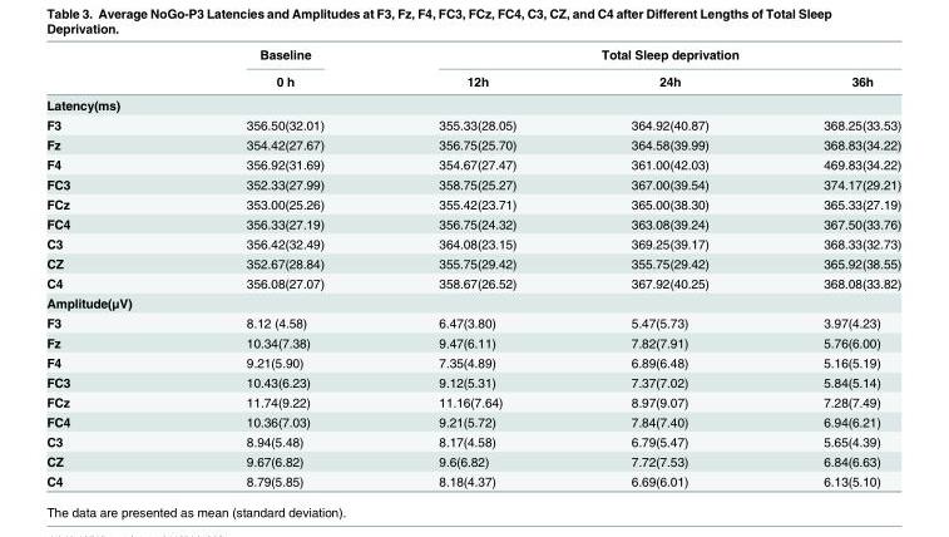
<table><thead><tr><td rowspan="2"></td><td rowspan="2">Baseline 0 h</td><td colspan="3">Total Sleep deprivation</td></tr><tr><td>12h</td><td>24h</td><td>36h</td></tr></thead><tbody><tr><td colspan="5">Latency(ms)</td></tr><tr><td>F3</td><td>356.50(32.01)</td><td>355.33(28.05)</td><td>364.92(40.87)</td><td>368.25(33.53)</td></tr><tr><td>Fz</td><td>354.42(27.67)</td><td>356.75(25.70)</td><td>364.58(39.99)</td><td>368.83(34.22)</td></tr><tr><td>F4</td><td>356.92(31.69)</td><td>354.67(27.47)</td><td>361.00(42.03)</td><td>469.83(34.22)</td></tr><tr><td>FC3</td><td>352.33(27.99)</td><td>358.75(25.27)</td><td>367.00(39.54)</td><td>374.17(29.21)</td></tr><tr><td>FCz</td><td>353.00(25.26)</td><td>355.42(23.71)</td><td>365.00(38.30)</td><td>365.33(27.19)</td></tr><tr><td>FC4</td><td>356.33(27.19)</td><td>356.75(24.32)</td><td>363.08(39.24)</td><td>367.50(33.76)</td></tr><tr><td>C3</td><td>356.42(32.49)</td><td>364.08(23.15)</td><td>369.25(39.17)</td><td>368.33(32.73)</td></tr><tr><td>CZ</td><td>352.67(28.84)</td><td>355.75(29.42)</td><td>355.75(29.42)</td><td>365.92(38.55)</td></tr><tr><td>C4</td><td>356.08(27.07)</td><td>358.67(26.52)</td><td>367.92(40.25)</td><td>368.08(33.82)</td></tr><tr><td colspan="5">Amplitude(μV)</td></tr><tr><td>F3</td><td>8.12 (4.58)</td><td>6.47(3.80)</td><td>5.47(5.73)</td><td>3.97(4.23)</td></tr><tr><td>Fz</td><td>10.34(7.38)</td><td>9.47(6.11)</td><td>7.82(7.91)</td><td>5.76(6.00)</td></tr><tr><td>F4</td><td>9.21(5.90)</td><td>7.35(4.89)</td><td>6.89(6.48)</td><td>5.16(5.19)</td></tr><tr><td>FC3</td><td>10.43(6.23)</td><td>9.12(5.31)</td><td>7.37(7.02)</td><td>5.84(5.14)</td></tr><tr><td>FCz</td><td>11.74(9.22)</td><td>11.16(7.64)</td><td>8.97(9.07)</td><td>7.28(7.49)</td></tr><tr><td>FC4</td><td>10.36(7.03)</td><td>9.21(5.72)</td><td>7.84(7.40)</td><td>6.94(6.21)</td></tr><tr><td>C3</td><td>8.94(5.48)</td><td>8.17(4.58)</td><td>6.79(5.47)</td><td>5.65(4.39)</td></tr><tr><td>CZ</td><td>9.67(6.82)</td><td>9.6(6.82)</td><td>7.72(7.53)</td><td>6.84(6.63)</td></tr><tr><td>C4</td><td>8.79(5.85)</td><td>8.18(4.37)</td><td>6.69(6.01)</td><td>6.13(5.10)</td></tr></tbody></table>